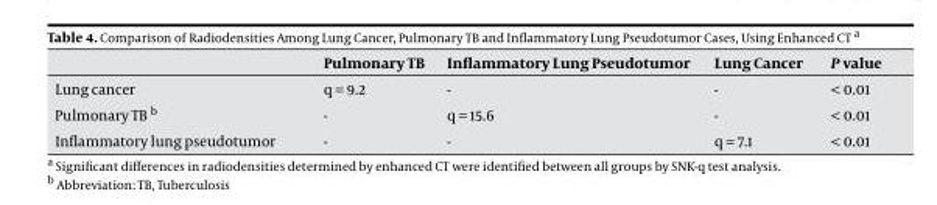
<table><thead><tr><td></td><td>Pulmonary TB</td><td>Inflammatory Lung Pseudotumor</td><td>Lung Cancer</td><td>P value</td></tr></thead><tbody><tr><td>Lung cancer</td><td>q = 9.2</td><td>-</td><td>-</td><td>&lt; 0.01</td></tr><tr><td>Pulmonary TB b</td><td>-</td><td>q = 15.6</td><td>-</td><td>&lt; 0.01</td></tr><tr><td>Inflammatory lung pseudotumor</td><td>-</td><td>-</td><td>q = 7.1</td><td>&lt; 0.01</td></tr></tbody></table>